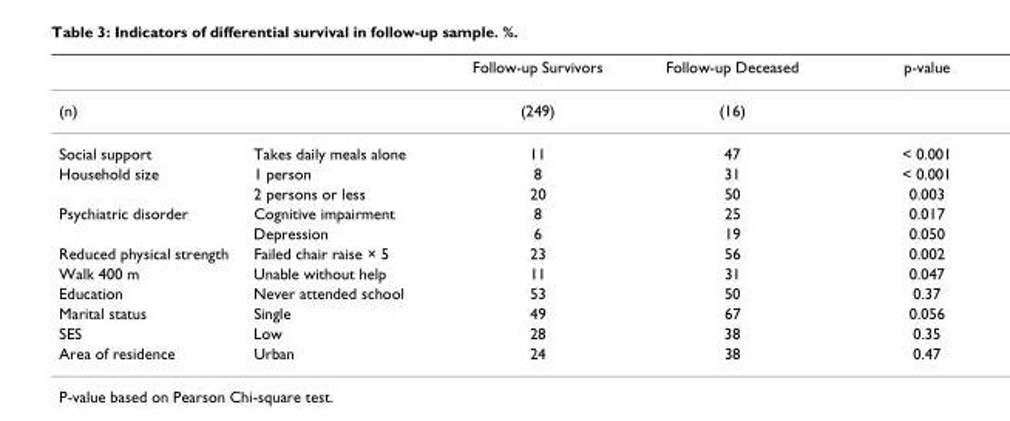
<table><thead><tr><td></td><td></td><td>Follow-up Survivors</td><td>Follow-up Deceased</td><td>p-value</td></tr></thead><tbody><tr><td>(n)</td><td></td><td>(249)</td><td>(16)</td><td></td></tr><tr><td>Social support</td><td>Takes daily meals alone</td><td>11</td><td>47</td><td>&lt; 0.001</td></tr><tr><td rowspan="2">Household size</td><td>1 person</td><td>8</td><td>31</td><td>&lt; 0.001</td></tr><tr><td>2 persons or less</td><td>20</td><td>50</td><td>0.003</td></tr><tr><td rowspan="2">Psychiatric disorder</td><td>Cognitive impairment</td><td>8</td><td>25</td><td>0.017</td></tr><tr><td>Depression</td><td>6</td><td>19</td><td>0.050</td></tr><tr><td>Reduced physical strength</td><td>Failed chair raise × 5</td><td>23</td><td>56</td><td>0.002</td></tr><tr><td>Walk 400 m</td><td>Unable without help</td><td>11</td><td>31</td><td>0.047</td></tr><tr><td>Education</td><td>Never attended school</td><td>53</td><td>50</td><td>0.37</td></tr><tr><td>Marital status</td><td>Single</td><td>49</td><td>67</td><td>0.056</td></tr><tr><td>SES</td><td>Low</td><td>28</td><td>38</td><td>0.35</td></tr><tr><td>Area of residence</td><td>Urban</td><td>24</td><td>38</td><td>0.47</td></tr></tbody></table>